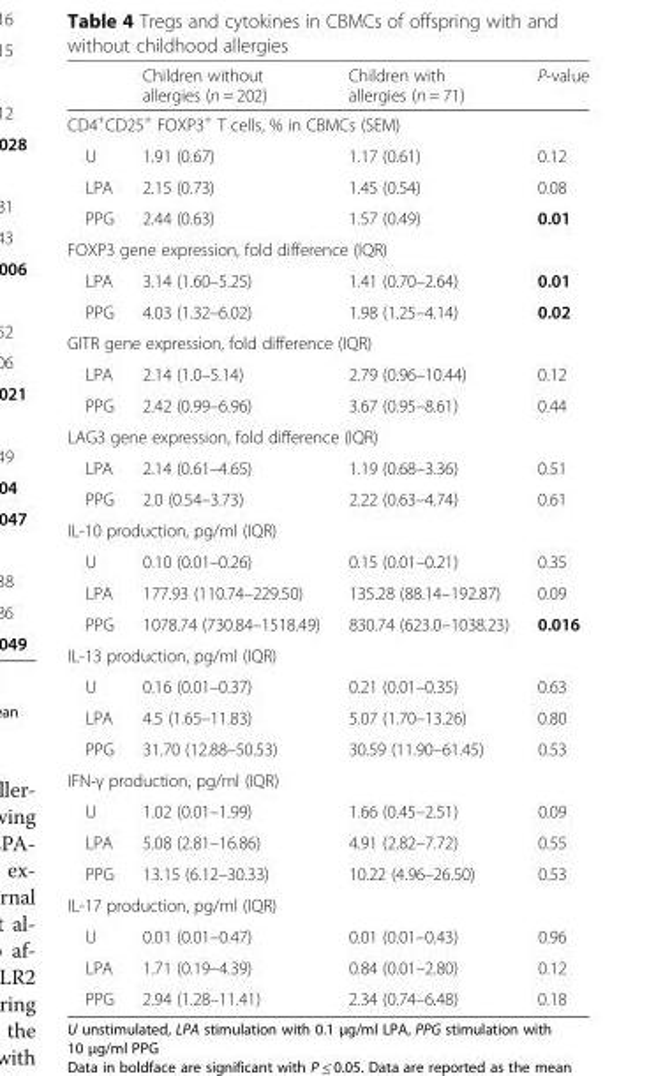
<table><thead><tr><td></td><td>Children without allergies (n = 202)</td><td>Children with allergies (n = 71)</td><td>P-value</td></tr></thead><tbody><tr><td colspan="4">CD4<sup>+</sup>CD25<sup>+</sup> FOXP3<sup>+</sup> T cells, % in CBMCs (SEM)</td></tr><tr><td>U</td><td>1.91 (0.67)</td><td>1.17 (0.61)</td><td>0.12</td></tr><tr><td>LPA</td><td>2.15 (0.73)</td><td>1.45 (0.54)</td><td>0.08</td></tr><tr><td>PPG</td><td>2.44 (0.63)</td><td>1.57 (0.49)</td><td>0.01</td></tr><tr><td colspan="4">FOXP3 gene expression, fold difference (IQR)</td></tr><tr><td>LPA</td><td>3.14 (1.60–5.25)</td><td>1.41 (0.70–2.64)</td><td>0.01</td></tr><tr><td>PPG</td><td>4.03 (1.32–6.02)</td><td>1.98 (1.25–4.14)</td><td>0.02</td></tr><tr><td colspan="4">GITR gene expression, fold difference (IQR)</td></tr><tr><td>LPA</td><td>2.14 (1.0–5.14)</td><td>2.79 (0.96–10.44)</td><td>0.12</td></tr><tr><td>PPG</td><td>2.42 (0.99–6.96)</td><td>3.67 (0.95–8.61)</td><td>0.44</td></tr><tr><td colspan="4">LAG3 gene expression, fold difference (IQR)</td></tr><tr><td>LPA</td><td>2.14 (0.61–4.65)</td><td>1.19 (0.68–3.36)</td><td>0.51</td></tr><tr><td>PPG</td><td>2.0 (0.54–3.73)</td><td>2.22 (0.63–4.74)</td><td>0.61</td></tr><tr><td colspan="4">IL-10 production, pg/ml (IQR)</td></tr><tr><td>U</td><td>0.10 (0.01–0.26)</td><td>0.15 (0.01–0.21)</td><td>0.35</td></tr><tr><td>LPA</td><td>177.93 (110.74–229.50)</td><td>135.28 (88.14–192.87)</td><td>0.09</td></tr><tr><td>PPG</td><td>1078.74 (730.84–1518.49)</td><td>830.74 (623.0–1038.23)</td><td>0.016</td></tr><tr><td colspan="4">IL-13 production, pg/ml (IQR)</td></tr><tr><td>U</td><td>0.16 (0.01–0.37)</td><td>0.21 (0.01–0.35)</td><td>0.63</td></tr><tr><td>LPA</td><td>4.5 (1.65–11.83)</td><td>5.07 (1.70–13.26)</td><td>0.80</td></tr><tr><td>PPG</td><td>31.70 (12.88–50.53)</td><td>30.59 (11.90–61.45)</td><td>0.53</td></tr><tr><td colspan="4">IFN-γ production, pg/ml (IQR)</td></tr><tr><td>U</td><td>1.02 (0.01–1.99)</td><td>1.66 (0.45–2.51)</td><td>0.09</td></tr><tr><td>LPA</td><td>5.08 (2.81–16.86)</td><td>4.91 (2.82–7.72)</td><td>0.55</td></tr><tr><td>PPG</td><td>13.15 (6.12–30.33)</td><td>10.22 (4.96–26.50)</td><td>0.53</td></tr><tr><td colspan="4">IL-17 production, pg/ml (IQR)</td></tr><tr><td>U</td><td>0.01 (0.01–0.47)</td><td>0.01 (0.01–0.43)</td><td>0.96</td></tr><tr><td>LPA</td><td>1.71 (0.19–4.39)</td><td>0.84 (0.01–2.80)</td><td>0.12</td></tr><tr><td>PPG</td><td>2.94 (1.28–11.41)</td><td>2.34 (0.74–6.48)</td><td>0.18</td></tr></tbody></table>